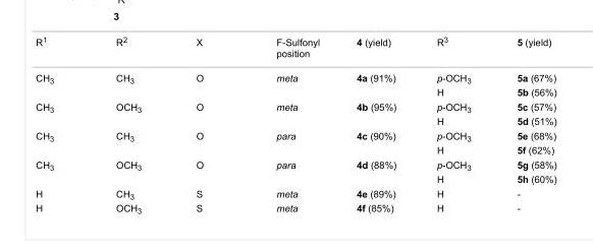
<table><tbody><tr><td>R<sup>1</sup></td><td>R<sup>2</sup></td><td>X</td><td>F-Sulfonyl position</td><td>4 (yield)</td><td>R<sup>3</sup></td><td>5 (yield)</td></tr><tr><td rowspan="2">CH<sub>3</sub></td><td>CH<sub>3</sub></td><td>O</td><td>meta</td><td>4a (91%)</td><td>p-OCH<sub>3</sub></td><td>5a (67%)</td></tr><tr><td></td><td></td><td></td><td></td><td>H</td><td>5b (56%)</td></tr><tr><td rowspan="2">CH<sub>3</sub></td><td>OCH<sub>3</sub></td><td>O</td><td>meta</td><td>4b (95%)</td><td>p-OCH<sub>3</sub></td><td>5c (57%)</td></tr><tr><td></td><td></td><td></td><td></td><td>H</td><td>5d (51%)</td></tr><tr><td rowspan="2">CH<sub>3</sub></td><td>CH<sub>3</sub></td><td>O</td><td>para</td><td>4c (90%)</td><td>p-OCH<sub>3</sub></td><td>5e (68%)</td></tr><tr><td></td><td></td><td></td><td></td><td>H</td><td>5f (62%)</td></tr><tr><td rowspan="2">CH<sub>3</sub></td><td>OCH<sub>3</sub></td><td>O</td><td>para</td><td>4d (88%)</td><td>p-OCH<sub>3</sub></td><td>5g (58%)</td></tr><tr><td></td><td></td><td></td><td></td><td>H</td><td>5h (60%)</td></tr><tr><td>H</td><td>CH<sub>3</sub></td><td>S</td><td>meta</td><td>4e (89%)</td><td>H</td><td>-</td></tr><tr><td>H</td><td>OCH<sub>3</sub></td><td>S</td><td>meta</td><td>4f (85%)</td><td>H</td><td>-</td></tr></tbody></table>